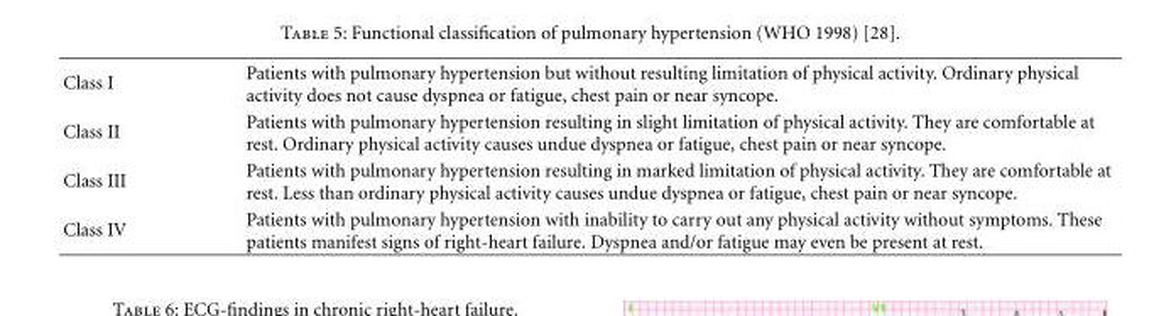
<table><tbody><tr><td>Class I</td><td>Patients with pulmonary hypertension but without resulting limitation of physical activity. Ordinary physical activity does not cause dyspnea or fatigue, chest pain or near syncope.</td></tr><tr><td>Class II</td><td>Patients with pulmonary hypertension resulting in slight limitation of physical activity. They are comfortable at rest. Ordinary physical activity causes undue dyspnea or fatigue, chest pain or near syncope.</td></tr><tr><td>Class III</td><td>Patients with pulmonary hypertension resulting in marked limitation of physical activity. They are comfortable at rest. Less than ordinary physical activity causes undue dyspnea or fatigue, chest pain or near syncope.</td></tr><tr><td>Class IV</td><td>Patients with pulmonary hypertension with inability to carry out any physical activity without symptoms. These patients manifest signs of right-heart failure. Dyspnea and/or fatigue may even be present at rest.</td></tr></tbody></table>